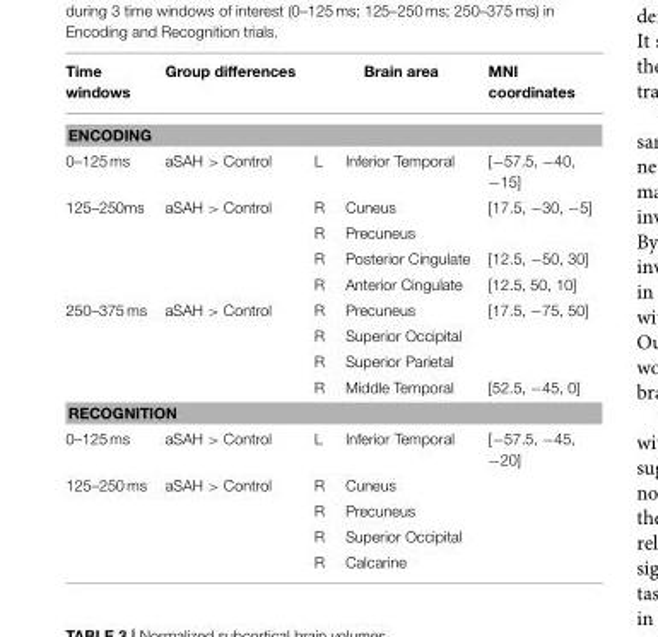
<table><thead><tr><td>Time windows</td><td>Group differences</td><td colspan="2">Brain area</td><td>MNI coordinates</td></tr><tr><td colspan="5">ENCODING</td></tr><tr><td>0–125 ms</td><td>aSAH &gt; Control</td><td>L</td><td>Inferior Temporal</td><td>[−57.5, −40, −15]</td></tr></thead><tbody><tr><td rowspan="4">125–250ms</td><td>aSAH &gt; Control</td><td>R</td><td>Cuneus</td><td>[17.5, −30, −5]</td></tr><tr><td></td><td>R</td><td>Precuneus</td><td></td></tr><tr><td></td><td>R</td><td>Posterior Cingulate</td><td>[12.5, −50, 30]</td></tr><tr><td></td><td>R</td><td>Anterior Cingulate</td><td>[12.5, 50, 10]</td></tr><tr><td rowspan="4">250–375 ms</td><td>aSAH &gt; Control</td><td>R</td><td>Precuneus</td><td>[17.5, −75, 50]</td></tr><tr><td></td><td>R</td><td>Superior Occipital</td><td></td></tr><tr><td></td><td>R</td><td>Superior Parietal</td><td></td></tr><tr><td></td><td>R</td><td>Middle Temporal</td><td>[52.5, −45, 0]</td></tr><tr><td colspan="5">RECOGNITION</td></tr><tr><td>0–125 ms</td><td>aSAH &gt; Control</td><td>L</td><td>Inferior Temporal</td><td>[−57.5, −45, −20]</td></tr><tr><td rowspan="4">125–250 ms</td><td>aSAH &gt; Control</td><td>R</td><td>Cuneus</td><td></td></tr><tr><td></td><td>R</td><td>Precuneus</td><td></td></tr><tr><td></td><td>R</td><td>Superior Occipital</td><td></td></tr><tr><td></td><td>R</td><td>Calcarine</td><td></td></tr></tbody></table>